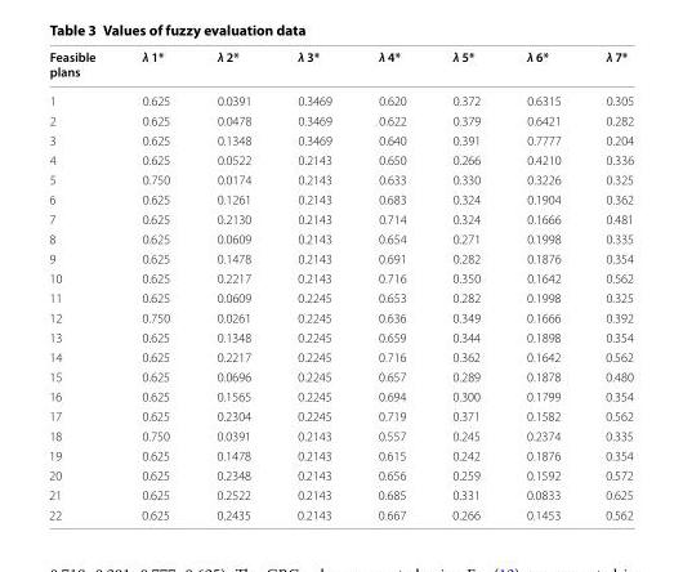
<table><thead><tr><td>Feasible plans</td><td>λ 1*</td><td>λ 2*</td><td>λ 3*</td><td>λ 4*</td><td>λ 5*</td><td>λ 6*</td><td>λ 7*</td></tr></thead><tbody><tr><td>1</td><td>0.625</td><td>0.0391</td><td>0.3469</td><td>0.620</td><td>0.372</td><td>0.6315</td><td>0.305</td></tr><tr><td>2</td><td>0.625</td><td>0.0478</td><td>0.3469</td><td>0.622</td><td>0.379</td><td>0.6421</td><td>0.282</td></tr><tr><td>3</td><td>0.625</td><td>0.1348</td><td>0.3469</td><td>0.640</td><td>0.391</td><td>0.7777</td><td>0.204</td></tr><tr><td>4</td><td>0.625</td><td>0.0522</td><td>0.2143</td><td>0.650</td><td>0.266</td><td>0.4210</td><td>0.336</td></tr><tr><td>5</td><td>0.750</td><td>0.0174</td><td>0.2143</td><td>0.633</td><td>0.330</td><td>0.3226</td><td>0.325</td></tr><tr><td>6</td><td>0.625</td><td>0.1261</td><td>0.2143</td><td>0.683</td><td>0.324</td><td>0.1904</td><td>0.362</td></tr><tr><td>7</td><td>0.625</td><td>0.2130</td><td>0.2143</td><td>0.714</td><td>0.324</td><td>0.1666</td><td>0.481</td></tr><tr><td>8</td><td>0.625</td><td>0.0609</td><td>0.2143</td><td>0.654</td><td>0.271</td><td>0.1998</td><td>0.335</td></tr><tr><td>9</td><td>0.625</td><td>0.1478</td><td>0.2143</td><td>0.691</td><td>0.282</td><td>0.1876</td><td>0.354</td></tr><tr><td>10</td><td>0.625</td><td>0.2217</td><td>0.2143</td><td>0.716</td><td>0.350</td><td>0.1642</td><td>0.562</td></tr><tr><td>11</td><td>0.625</td><td>0.0609</td><td>0.2245</td><td>0.653</td><td>0.282</td><td>0.1998</td><td>0.325</td></tr><tr><td>12</td><td>0.750</td><td>0.0261</td><td>0.2245</td><td>0.636</td><td>0.349</td><td>0.1666</td><td>0.392</td></tr><tr><td>13</td><td>0.625</td><td>0.1348</td><td>0.2245</td><td>0.659</td><td>0.344</td><td>0.1898</td><td>0.354</td></tr><tr><td>14</td><td>0.625</td><td>0.2217</td><td>0.2245</td><td>0.716</td><td>0.362</td><td>0.1642</td><td>0.562</td></tr><tr><td>15</td><td>0.625</td><td>0.0696</td><td>0.2245</td><td>0.657</td><td>0.289</td><td>0.1878</td><td>0.480</td></tr><tr><td>16</td><td>0.625</td><td>0.1565</td><td>0.2245</td><td>0.694</td><td>0.300</td><td>0.1799</td><td>0.354</td></tr><tr><td>17</td><td>0.625</td><td>0.2304</td><td>0.2245</td><td>0.719</td><td>0.371</td><td>0.1582</td><td>0.562</td></tr><tr><td>18</td><td>0.750</td><td>0.0391</td><td>0.2143</td><td>0.557</td><td>0.245</td><td>0.2374</td><td>0.335</td></tr><tr><td>19</td><td>0.625</td><td>0.1478</td><td>0.2143</td><td>0.615</td><td>0.242</td><td>0.1876</td><td>0.354</td></tr><tr><td>20</td><td>0.625</td><td>0.2348</td><td>0.2143</td><td>0.656</td><td>0.259</td><td>0.1592</td><td>0.572</td></tr><tr><td>21</td><td>0.625</td><td>0.2522</td><td>0.2143</td><td>0.685</td><td>0.331</td><td>0.0833</td><td>0.625</td></tr><tr><td>22</td><td>0.625</td><td>0.2435</td><td>0.2143</td><td>0.667</td><td>0.266</td><td>0.1453</td><td>0.562</td></tr></tbody></table>